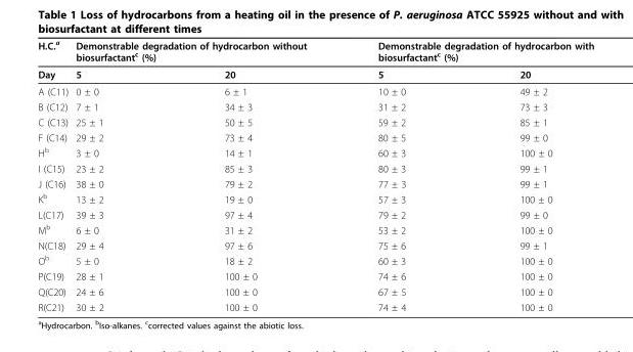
<table><thead><tr><td rowspan="2">H.C.a Day</td><td colspan="2">Demonstrable degradation of hydrocarbon without biosurfactantc (%)</td><td colspan="2">Demonstrable degradation of hydrocarbon with biosurfactantc (%)</td></tr><tr><td>5</td><td>20</td><td>5</td><td>20</td></tr></thead><tbody><tr><td>A (C11)</td><td>0 ± 0</td><td>6 ± 1</td><td>10 ± 0</td><td>49 ± 2</td></tr><tr><td>B (C12)</td><td>7 ± 1</td><td>34 ± 3</td><td>31 ± 2</td><td>73 ± 3</td></tr><tr><td>C (C13)</td><td>25 ± 1</td><td>50 ± 5</td><td>59 ± 2</td><td>85 ± 1</td></tr><tr><td>F (C14)</td><td>29 ± 2</td><td>73 ± 4</td><td>80 ± 5</td><td>99 ± 0</td></tr><tr><td>H<sup>b</sup></td><td>3 ± 0</td><td>14 ± 1</td><td>60 ± 3</td><td>100 ± 0</td></tr><tr><td>I (C15)</td><td>23 ± 2</td><td>85 ± 3</td><td>80 ± 3</td><td>99 ± 1</td></tr><tr><td>J (C16)</td><td>38 ± 0</td><td>79 ± 2</td><td>77 ± 3</td><td>99 ± 1</td></tr><tr><td>K<sup>b</sup></td><td>13 ± 2</td><td>19 ± 0</td><td>57 ± 3</td><td>100 ± 0</td></tr><tr><td>L(C17)</td><td>39 ± 3</td><td>97 ± 4</td><td>79 ± 2</td><td>99 ± 0</td></tr><tr><td>M<sup>b</sup></td><td>6 ± 0</td><td>31 ± 2</td><td>53 ± 2</td><td>100 ± 0</td></tr><tr><td>N(C18)</td><td>29 ± 4</td><td>97 ± 6</td><td>75 ± 6</td><td>99 ± 1</td></tr><tr><td>O<sup>b</sup></td><td>5 ± 0</td><td>18 ± 2</td><td>60 ± 3</td><td>100 ± 0</td></tr><tr><td>P(C19)</td><td>28 ± 1</td><td>100 ± 0</td><td>74 ± 6</td><td>100 ± 0</td></tr><tr><td>Q(C20)</td><td>24 ± 6</td><td>100 ± 0</td><td>67 ± 5</td><td>100 ± 0</td></tr><tr><td>R(C21)</td><td>30 ± 2</td><td>100 ± 0</td><td>74 ± 4</td><td>100 ± 0</td></tr></tbody></table>